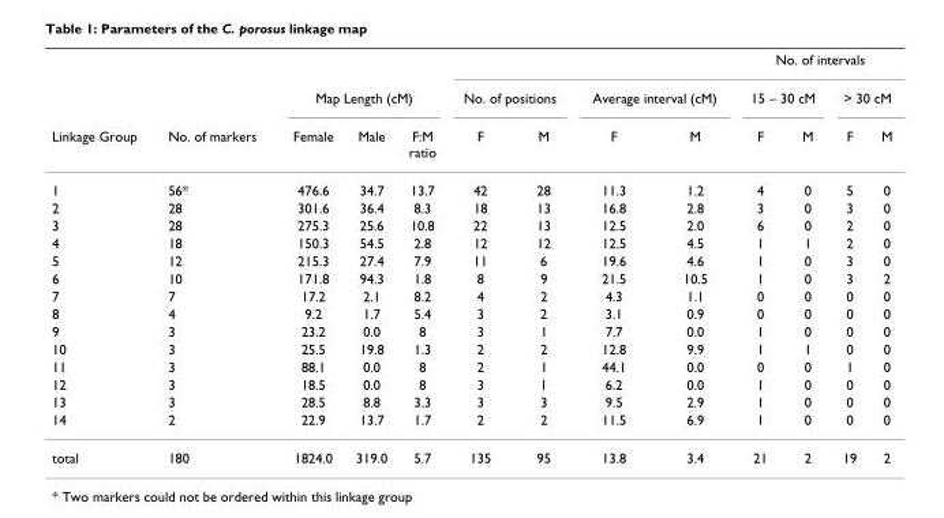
<table><thead><tr><td rowspan="3">Linkage Group</td><td rowspan="3">No. of markers</td><td></td><td></td><td></td><td></td><td></td><td></td><td></td><td colspan="4">No. of intervals</td></tr><tr><td colspan="3">Map Length (cM)</td><td colspan="2">No. of positions</td><td colspan="2">Average interval (cM)</td><td colspan="2">15 – 30 cM</td><td colspan="2">&gt; 30 cM</td></tr><tr><td>Female</td><td>Male</td><td>F:M ratio</td><td>F</td><td>M</td><td>F</td><td>M</td><td>F</td><td>M</td><td>F</td><td>M</td></tr></thead><tbody><tr><td>1</td><td>56*</td><td>476.6</td><td>34.7</td><td>13.7</td><td>42</td><td>28</td><td>11.3</td><td>1.2</td><td>4</td><td>0</td><td>5</td><td>0</td></tr><tr><td>2</td><td>28</td><td>301.6</td><td>36.4</td><td>8.3</td><td>18</td><td>13</td><td>16.8</td><td>2.8</td><td>3</td><td>0</td><td>3</td><td>0</td></tr><tr><td>3</td><td>28</td><td>275.3</td><td>25.6</td><td>10.8</td><td>22</td><td>13</td><td>12.5</td><td>2.0</td><td>6</td><td>0</td><td>2</td><td>0</td></tr><tr><td>4</td><td>18</td><td>150.3</td><td>54.5</td><td>2.8</td><td>12</td><td>12</td><td>12.5</td><td>4.5</td><td>1</td><td>1</td><td>2</td><td>0</td></tr><tr><td>5</td><td>12</td><td>215.3</td><td>27.4</td><td>7.9</td><td>11</td><td>6</td><td>19.6</td><td>4.6</td><td>1</td><td>0</td><td>3</td><td>0</td></tr><tr><td>6</td><td>10</td><td>171.8</td><td>94.3</td><td>1.8</td><td>8</td><td>9</td><td>21.5</td><td>10.5</td><td>1</td><td>0</td><td>3</td><td>2</td></tr><tr><td>7</td><td>7</td><td>17.2</td><td>2.1</td><td>8.2</td><td>4</td><td>2</td><td>4.3</td><td>1.1</td><td>0</td><td>0</td><td>0</td><td>0</td></tr><tr><td>8</td><td>4</td><td>9.2</td><td>1.7</td><td>5.4</td><td>3</td><td>2</td><td>3.1</td><td>0.9</td><td>0</td><td>0</td><td>0</td><td>0</td></tr><tr><td>9</td><td>3</td><td>23.2</td><td>0.0</td><td>8</td><td>3</td><td>1</td><td>7.7</td><td>0.0</td><td>1</td><td>0</td><td>0</td><td>0</td></tr><tr><td>10</td><td>3</td><td>25.5</td><td>19.8</td><td>1.3</td><td>2</td><td>2</td><td>12.8</td><td>9.9</td><td>1</td><td>1</td><td>0</td><td>0</td></tr><tr><td>11</td><td>3</td><td>88.1</td><td>0.0</td><td>8</td><td>2</td><td>1</td><td>44.1</td><td>0.0</td><td>0</td><td>0</td><td>1</td><td>0</td></tr><tr><td>12</td><td>3</td><td>18.5</td><td>0.0</td><td>8</td><td>3</td><td>1</td><td>6.2</td><td>0.0</td><td>1</td><td>0</td><td>0</td><td>0</td></tr><tr><td>13</td><td>3</td><td>28.5</td><td>8.8</td><td>3.3</td><td>3</td><td>3</td><td>9.5</td><td>2.9</td><td>1</td><td>0</td><td>0</td><td>0</td></tr><tr><td>14</td><td>2</td><td>22.9</td><td>13.7</td><td>1.7</td><td>2</td><td>2</td><td>11.5</td><td>6.9</td><td>1</td><td>0</td><td>0</td><td>0</td></tr><tr><td>total</td><td>180</td><td>1824.0</td><td>319.0</td><td>5.7</td><td>135</td><td>95</td><td>13.8</td><td>3.4</td><td>21</td><td>2</td><td>19</td><td>2</td></tr></tbody></table>